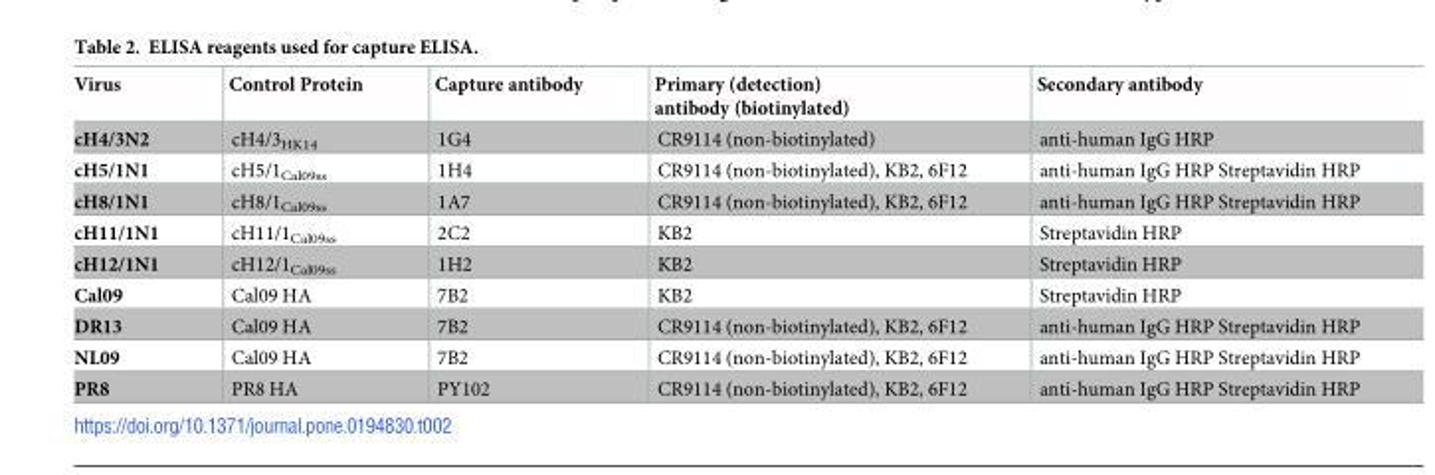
<table><thead><tr><td>Virus</td><td>Control Protein</td><td>Capture antibody</td><td>Primary (detection) antibody (biotinylated)</td><td>Secondary antibody</td></tr></thead><tbody><tr><td>cH4/3N2</td><td>cH4/3<sub>HK14</sub></td><td>1G4</td><td>CR9114 (non-biotinylated)</td><td>anti-human IgG HRP</td></tr><tr><td>cH5/1N1</td><td>cH5/1<sub>Cal09ss</sub></td><td>1H4</td><td>CR9114 (non-biotinylated), KB2, 6F12</td><td>anti-human IgG HRP Streptavidin HRP</td></tr><tr><td>cH8/1N1</td><td>cH8/1<sub>Cal09ss</sub></td><td>1A7</td><td>CR9114 (non-biotinylated), KB2, 6F12</td><td>anti-human IgG HRP Streptavidin HRP</td></tr><tr><td>cH11/1N1</td><td>cH11/1<sub>Cal09ss</sub></td><td>2C2</td><td>KB2</td><td>Streptavidin HRP</td></tr><tr><td>cH12/1N1</td><td>cH12/1<sub>Cal09ss</sub></td><td>1H2</td><td>KB2</td><td>Streptavidin HRP</td></tr><tr><td>Cal09</td><td>Cal09 HA</td><td>7B2</td><td>KB2</td><td>Streptavidin HRP</td></tr><tr><td>DR13</td><td>Cal09 HA</td><td>7B2</td><td>CR9114 (non-biotinylated), KB2, 6F12</td><td>anti-human IgG HRP Streptavidin HRP</td></tr><tr><td>NL09</td><td>Cal09 HA</td><td>7B2</td><td>CR9114 (non-biotinylated), KB2, 6F12</td><td>anti-human IgG HRP Streptavidin HRP</td></tr><tr><td>PR8</td><td>PR8 HA</td><td>PY102</td><td>CR9114 (non-biotinylated), KB2, 6F12</td><td>anti-human IgG HRP Streptavidin HRP</td></tr></tbody></table>